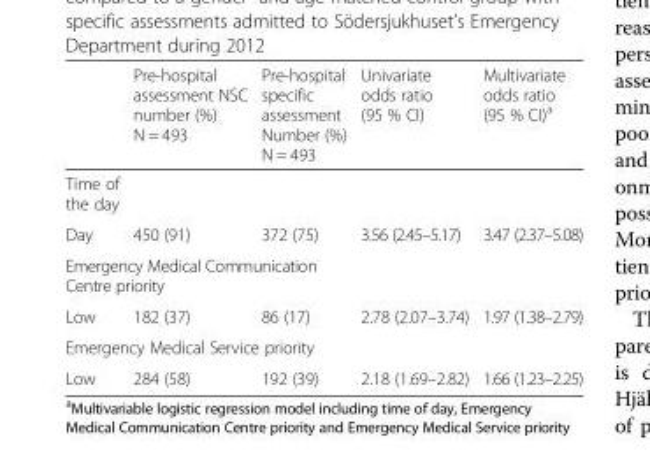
<table><thead><tr><td></td><td>Pre-hospital assessment NSC number (%) N = 493</td><td>Pre-hospital specific assessment Number (%) N = 493</td><td>Univariate odds ratio (95 % CI)</td><td>Multivariate odds ratio (95 % CI)<sup>a</sup></td></tr></thead><tbody><tr><td colspan="5">Time of the day</td></tr><tr><td>Day</td><td>450 (91)</td><td>372 (75)</td><td>3.56 (2.45–5.17)</td><td>3.47 (2.37–5.08)</td></tr><tr><td colspan="5">Emergency Medical Communication Centre priority</td></tr><tr><td>Low</td><td>182 (37)</td><td>86 (17)</td><td>2.78 (2.07–3.74)</td><td>1.97 (1.38–2.79)</td></tr><tr><td colspan="5">Emergency Medical Service priority</td></tr><tr><td>Low</td><td>284 (58)</td><td>192 (39)</td><td>2.18 (1.69–2.82)</td><td>1.66 (1.23–2.25)</td></tr></tbody></table>